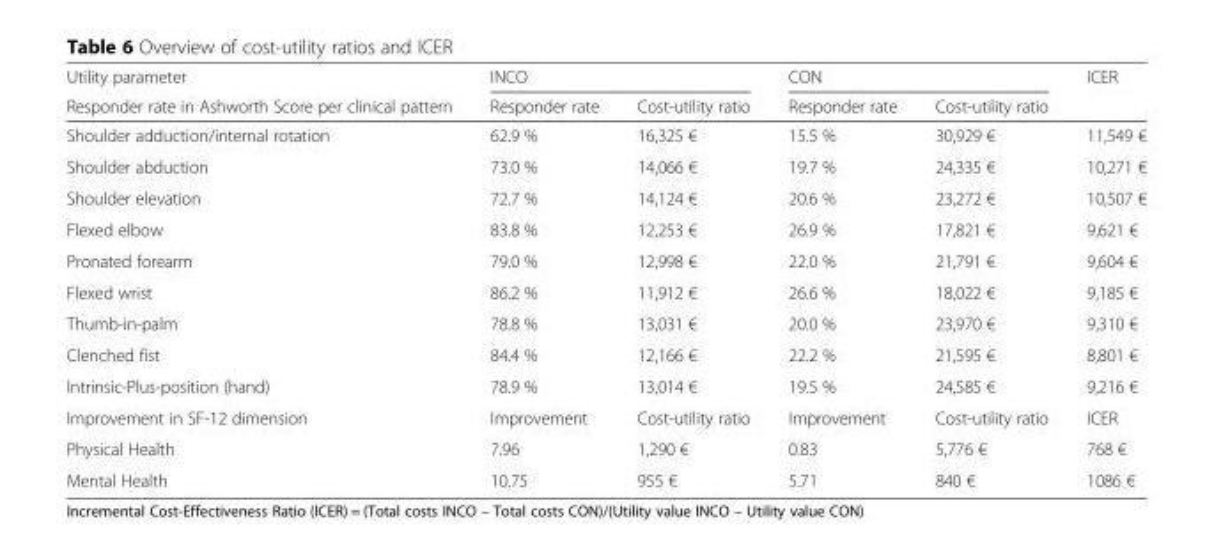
<table><thead><tr><td rowspan="2">Utility parameter Responder rate in Ashworth Score per clinical pattern</td><td colspan="2">INCO</td><td colspan="2">CON</td><td rowspan="2">ICER</td></tr><tr><td>Responder rate</td><td>Cost-utility ratio</td><td>Responder rate</td><td>Cost-utility ratio</td></tr></thead><tbody><tr><td>Shoulder adduction/internal rotation</td><td>62.9 %</td><td>16,325 €</td><td>15.5 %</td><td>30,929 €</td><td>11,549 €</td></tr><tr><td>Shoulder abduction</td><td>73.0 %</td><td>14,066 €</td><td>19.7 %</td><td>24,335 €</td><td>10,271 €</td></tr><tr><td>Shoulder elevation</td><td>72.7 %</td><td>14,124 €</td><td>20.6 %</td><td>23,272 €</td><td>10,507 €</td></tr><tr><td>Flexed elbow</td><td>83.8 %</td><td>12,253 €</td><td>26.9 %</td><td>17,821 €</td><td>9,621 €</td></tr><tr><td>Pronated forearm</td><td>79.0 %</td><td>12,998 €</td><td>22.0 %</td><td>21,791 €</td><td>9,604 €</td></tr><tr><td>Flexed wrist</td><td>86.2 %</td><td>11,912 €</td><td>26.6 %</td><td>18,022 €</td><td>9,185 €</td></tr><tr><td>Thumb-in-palm</td><td>78.8 %</td><td>13,031 €</td><td>20.0 %</td><td>23,970 €</td><td>9,310 €</td></tr><tr><td>Clenched fist</td><td>84.4 %</td><td>12,166 €</td><td>22.2 %</td><td>21,595 €</td><td>8,801 €</td></tr><tr><td>Intrinsic-Plus-position (hand)</td><td>78.9 %</td><td>13,014 €</td><td>19.5 %</td><td>24,585 €</td><td>9,216 €</td></tr><tr><td>Improvement in SF-12 dimension</td><td>Improvement</td><td>Cost-utility ratio</td><td>Improvement</td><td>Cost-utility ratio</td><td>ICER</td></tr><tr><td>Physical Health</td><td>7.96</td><td>1,290 €</td><td>0.83</td><td>5,776 €</td><td>768 €</td></tr><tr><td>Mental Health</td><td>10.75</td><td>955 €</td><td>5.71</td><td>840 €</td><td>1086 €</td></tr></tbody></table>